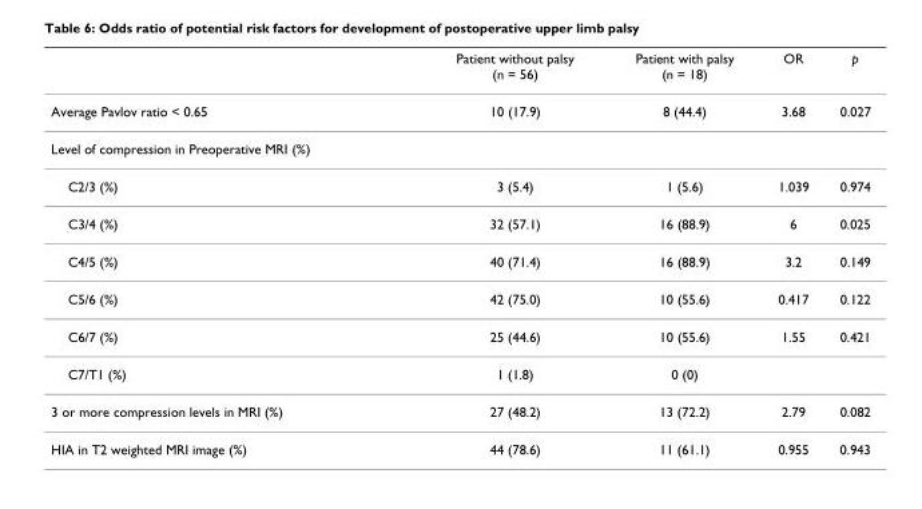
<table><thead><tr><td></td><td>Patient without palsy (n = 56)</td><td>Patient with palsy (n = 18)</td><td>OR</td><td>p</td></tr></thead><tbody><tr><td>Average Pavlov ratio &lt; 0.65</td><td>10 (17.9)</td><td>8 (44.4)</td><td>3.68</td><td>0.027</td></tr><tr><td colspan="5">Level of compression in Preoperative MRI (%)</td></tr><tr><td>C2/3 (%)</td><td>3 (5.4)</td><td>1 (5.6)</td><td>1.039</td><td>0.974</td></tr><tr><td>C3/4 (%)</td><td>32 (57.1)</td><td>16 (88.9)</td><td>6</td><td>0.025</td></tr><tr><td>C4/5 (%)</td><td>40 (71.4)</td><td>16 (88.9)</td><td>3.2</td><td>0.149</td></tr><tr><td>C5/6 (%)</td><td>42 (75.0)</td><td>10 (55.6)</td><td>0.417</td><td>0.122</td></tr><tr><td>C6/7 (%)</td><td>25 (44.6)</td><td>10 (55.6)</td><td>1.55</td><td>0.421</td></tr><tr><td>C7/T1 (%)</td><td>1 (1.8)</td><td>0 (0)</td><td></td><td></td></tr><tr><td>3 or more compression levels in MRI (%)</td><td>27 (48.2)</td><td>13 (72.2)</td><td>2.79</td><td>0.082</td></tr><tr><td>HIA in T2 weighted MRI image (%)</td><td>44 (78.6)</td><td>11 (61.1)</td><td>0.955</td><td>0.943</td></tr></tbody></table>